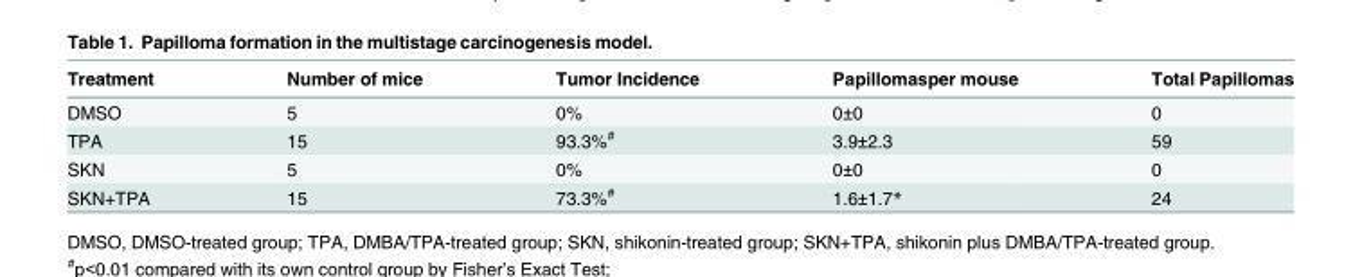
<table><thead><tr><td>Treatment</td><td>Number of mice</td><td>Tumor Incidence</td><td>Papillomasper mouse</td><td>Total Papillomas</td></tr></thead><tbody><tr><td>DMSO</td><td>5</td><td>0%</td><td>0±0</td><td>0</td></tr><tr><td>TPA</td><td>15</td><td>93.3%<sup>#</sup></td><td>3.9±2.3</td><td>59</td></tr><tr><td>SKN</td><td>5</td><td>0%</td><td>0±0</td><td>0</td></tr><tr><td>SKN+TPA</td><td>15</td><td>73.3%<sup>#</sup></td><td>1.6±1.7*</td><td>24</td></tr></tbody></table>